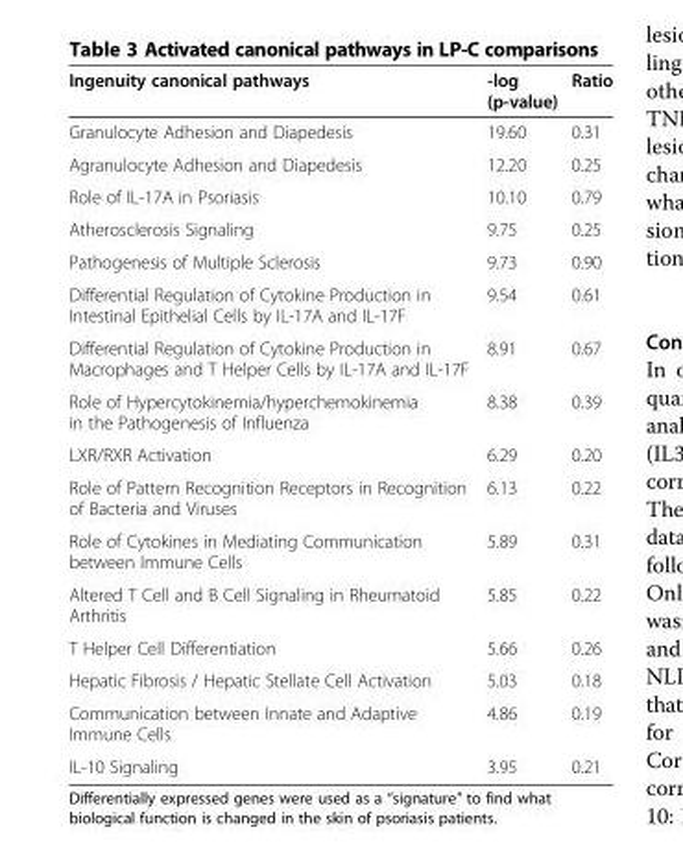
<table><thead><tr><td>Ingenuity canonical pathways</td><td>-log (p-value)</td><td>Ratio</td></tr></thead><tbody><tr><td>Granulocyte Adhesion and Diapedesis</td><td>19.60</td><td>0.31</td></tr><tr><td>Agranulocyte Adhesion and Diapedesis</td><td>12.20</td><td>0.25</td></tr><tr><td>Role of IL-17A in Psoriasis</td><td>10.10</td><td>0.79</td></tr><tr><td>Atherosclerosis Signaling</td><td>9.75</td><td>0.25</td></tr><tr><td>Pathogenesis of Multiple Sclerosis</td><td>9.73</td><td>0.90</td></tr><tr><td>Differential Regulation of Cytokine Production in Intestinal Epithelial Cells by IL-17A and IL-17F</td><td>9.54</td><td>0.61</td></tr><tr><td>Differential Regulation of Cytokine Production in Macrophages and T Helper Cells by IL-17A and IL-17F</td><td>8.91</td><td>0.67</td></tr><tr><td>Role of Hypercytokinemia/hyperchemokinemia in the Pathogenesis of Influenza</td><td>8.38</td><td>0.39</td></tr><tr><td>LXR/RXR Activation</td><td>6.29</td><td>0.20</td></tr><tr><td>Role of Pattern Recognition Receptors in Recognition of Bacteria and Viruses</td><td>6.13</td><td>0.22</td></tr><tr><td>Role of Cytokines in Mediating Communication between Immune Cells</td><td>5.89</td><td>0.31</td></tr><tr><td>Altered T Cell and B Cell Signaling in Rheumatoid Arthritis</td><td>5.85</td><td>0.22</td></tr><tr><td>T Helper Cell Differentiation</td><td>5.66</td><td>0.26</td></tr><tr><td>Hepatic Fibrosis / Hepatic Stellate Cell Activation</td><td>5.03</td><td>0.18</td></tr><tr><td>Communication between Innate and Adaptive Immune Cells</td><td>4.86</td><td>0.19</td></tr><tr><td>IL-10 Signaling</td><td>3.95</td><td>0.21</td></tr></tbody></table>